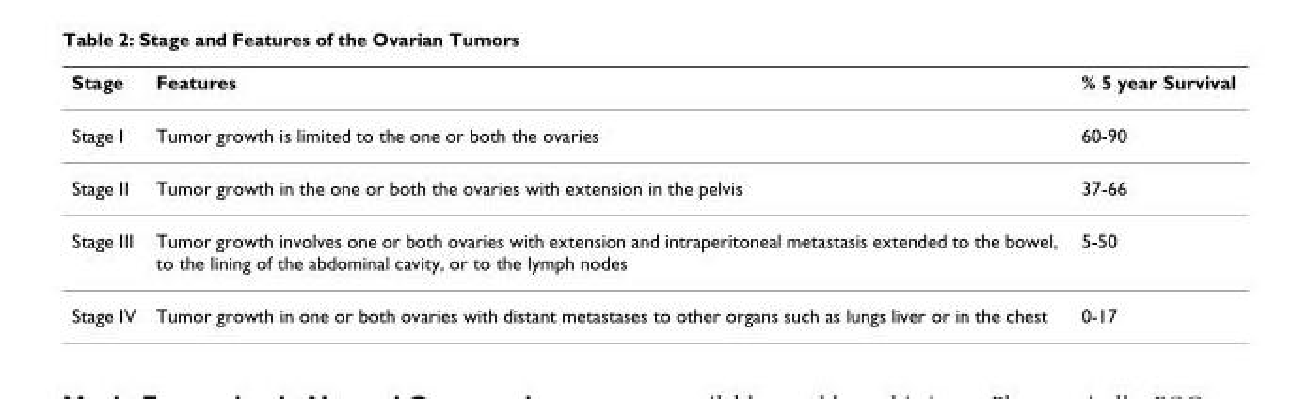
<table><thead><tr><td>Stage</td><td>Features</td><td>% 5 year Survival</td></tr></thead><tbody><tr><td>Stage I</td><td>Tumor growth is limited to the one or both the ovaries</td><td>60-90</td></tr><tr><td>Stage II</td><td>Tumor growth in the one or both the ovaries with extension in the pelvis</td><td>37-66</td></tr><tr><td>Stage III</td><td>Tumor growth involves one or both ovaries with extension and intraperitoneal metastasis extended to the bowel, to the lining of the abdominal cavity, or to the lymph nodes</td><td>5-50</td></tr><tr><td>Stage IV</td><td>Tumor growth in one or both ovaries with distant metastases to other organs such as lungs liver or in the chest</td><td>0-17</td></tr></tbody></table>